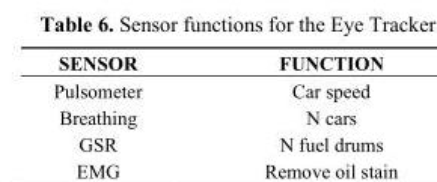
<table><thead><tr><td>SENSOR</td><td>FUNCTION</td></tr></thead><tbody><tr><td>Pulsometer</td><td>Car speed</td></tr><tr><td>Breathing</td><td>N cars</td></tr></tbody></table>